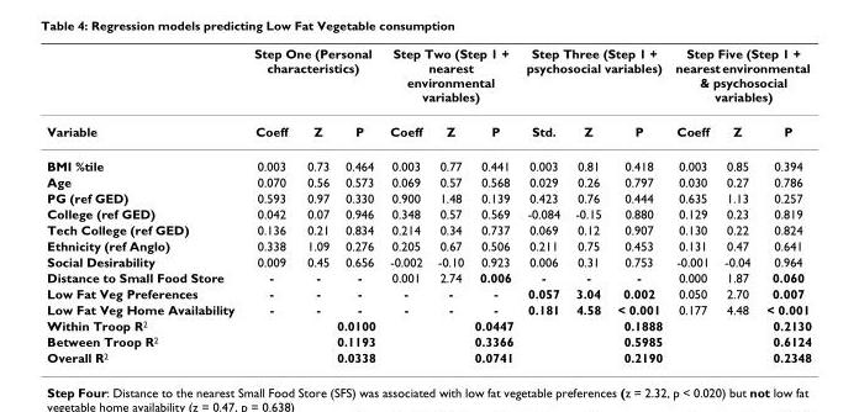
<table><thead><tr><td rowspan="2">Variable</td><td colspan="3">Step One (Personal characteristics)</td><td colspan="3">Step Two (Step 1 + nearest environmental variables)</td><td colspan="3">Step Three (Step 1 + psychosocial variables)</td><td colspan="3">Step Five (Step 1 + nearest environmental &amp; psychosocial variables)</td></tr><tr><td>Coeff</td><td>Z</td><td>P</td><td>Coeff</td><td>Z</td><td>P</td><td>Std.</td><td>Z</td><td>P</td><td>Coeff</td><td>Z</td><td>P</td></tr></thead><tbody><tr><td>BMI %tile</td><td>0.003</td><td>0.73</td><td>0.464</td><td>0.003</td><td>0.77</td><td>0.441</td><td>0.003</td><td>0.81</td><td>0.418</td><td>0.003</td><td>0.85</td><td>0.394</td></tr><tr><td>Age</td><td>0.070</td><td>0.56</td><td>0.573</td><td>0.069</td><td>0.57</td><td>0.568</td><td>0.029</td><td>0.26</td><td>0.797</td><td>0.030</td><td>0.27</td><td>0.786</td></tr><tr><td>PG (ref GED)</td><td>0.593</td><td>0.97</td><td>0.330</td><td>0.900</td><td>1.48</td><td>0.139</td><td>0.423</td><td>0.76</td><td>0.444</td><td>0.635</td><td>1.13</td><td>0.257</td></tr><tr><td>College (ref GED)</td><td>0.042</td><td>0.07</td><td>0.946</td><td>0.348</td><td>0.57</td><td>0.569</td><td>-0.084</td><td>-0.15</td><td>0.880</td><td>0.129</td><td>0.23</td><td>0.819</td></tr><tr><td>Tech College (ref GED)</td><td>0.136</td><td>0.21</td><td>0.834</td><td>0.214</td><td>0.34</td><td>0.737</td><td>0.069</td><td>0.12</td><td>0.907</td><td>0.130</td><td>0.22</td><td>0.824</td></tr><tr><td>Ethnicity (ref Anglo)</td><td>0.338</td><td>1.09</td><td>0.276</td><td>0.205</td><td>0.67</td><td>0.506</td><td>0.211</td><td>0.75</td><td>0.453</td><td>0.131</td><td>0.47</td><td>0.641</td></tr><tr><td>Social Desirability</td><td>0.009</td><td>0.45</td><td>0.656</td><td>-0.002</td><td>-0.10</td><td>0.923</td><td>0.006</td><td>0.31</td><td>0.753</td><td>-0.001</td><td>-0.04</td><td>0.964</td></tr><tr><td>Distance to Small Food Store</td><td>-</td><td>-</td><td>-</td><td>0.001</td><td>2.74</td><td>0.006</td><td>-</td><td>-</td><td>-</td><td>0.000</td><td>1.87</td><td>0.060</td></tr><tr><td>Low Fat Veg Preferences</td><td>-</td><td>-</td><td>-</td><td>-</td><td>-</td><td>-</td><td>0.057</td><td>3.04</td><td>0.002</td><td>0.050</td><td>2.70</td><td>0.007</td></tr><tr><td>Low Fat Veg Home Availability</td><td>-</td><td>-</td><td>-</td><td>-</td><td>-</td><td>-</td><td>0.181</td><td>4.58</td><td>&lt; 0.001</td><td>0.177</td><td>4.48</td><td>&lt; 0.001</td></tr><tr><td>Within Troop R<sup>2</sup></td><td colspan="3">0.0100</td><td colspan="3">0.0447</td><td colspan="3">0.1888</td><td colspan="3">0.2130</td></tr><tr><td>Between Troop R<sup>2</sup></td><td colspan="3">0.1193</td><td colspan="3">0.3366</td><td colspan="3">0.5985</td><td colspan="3">0.6124</td></tr><tr><td>Overall R<sup>2</sup></td><td colspan="3">0.0338</td><td colspan="3">0.0741</td><td colspan="3">0.2190</td><td colspan="3">0.2348</td></tr></tbody></table>